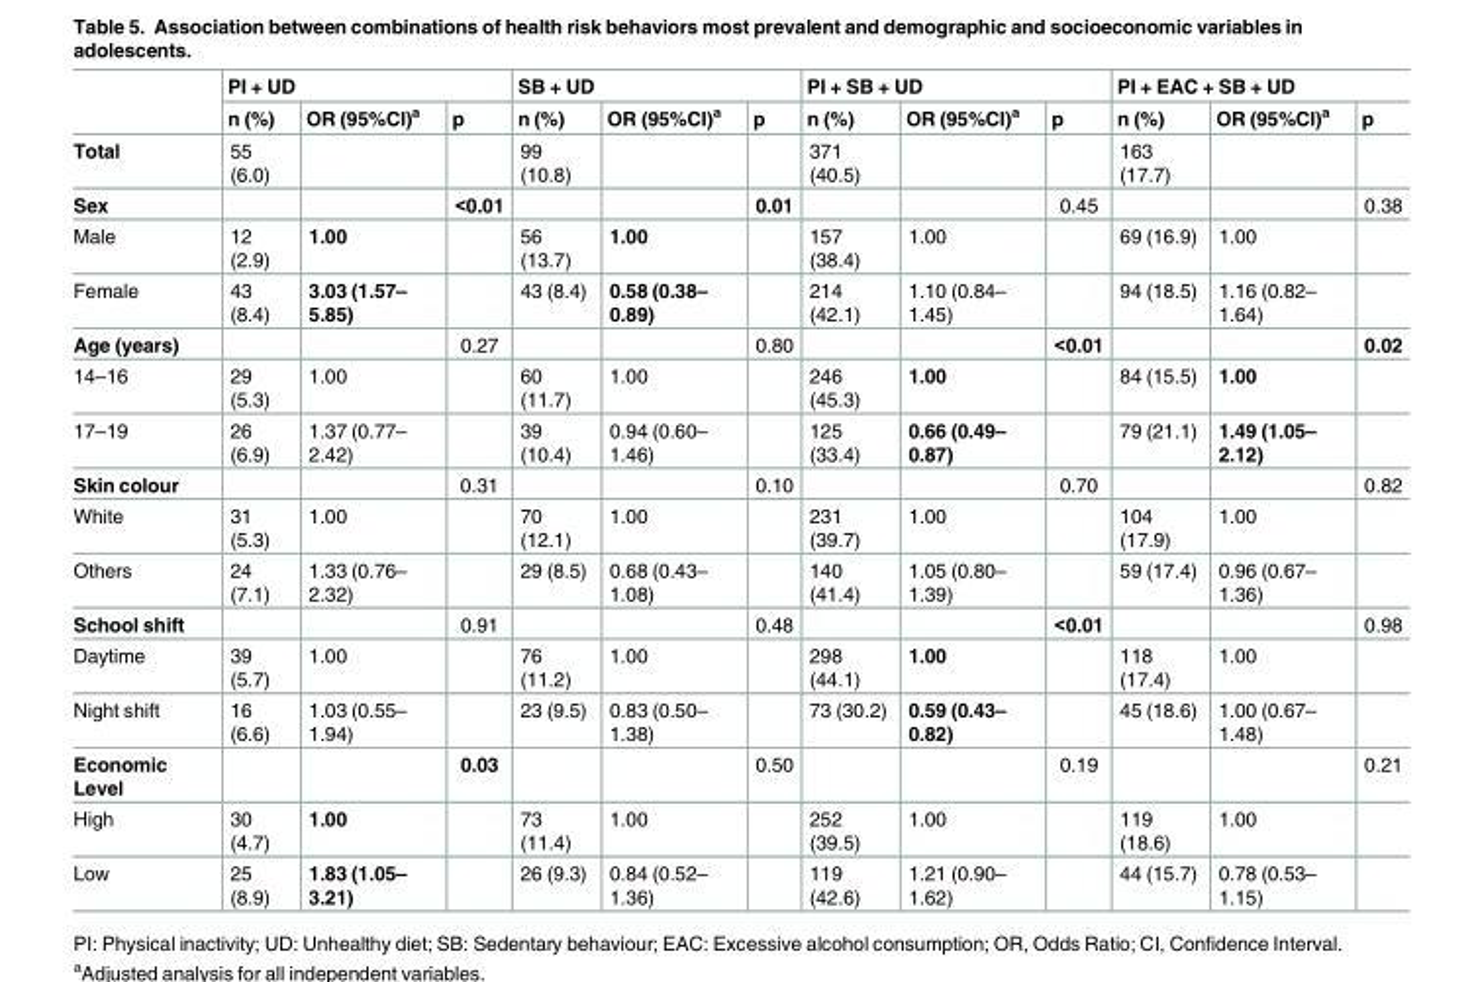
<table><thead><tr><td rowspan="2"></td><td colspan="3">PI + UD</td><td colspan="3">SB + UD</td><td colspan="3">PI + SB + UD</td><td colspan="3">PI + EAC + SB + UD</td></tr><tr><td>n (%)</td><td>OR (95%CI)<sup>a</sup></td><td>p</td><td>n (%)</td><td>OR (95%CI)<sup>a</sup></td><td>p</td><td>n (%)</td><td>OR (95%CI)<sup>a</sup></td><td>p</td><td>n (%)</td><td>OR (95%CI)<sup>a</sup></td><td>p</td></tr></thead><tbody><tr><td>Total</td><td>55 (6.0)</td><td></td><td></td><td>99 (10.8)</td><td></td><td></td><td>371 (40.5)</td><td></td><td></td><td>163 (17.7)</td><td></td><td></td></tr><tr><td>Sex</td><td></td><td></td><td>&lt;0.01</td><td></td><td></td><td>0.01</td><td></td><td></td><td>0.45</td><td></td><td></td><td>0.38</td></tr><tr><td>Male</td><td>12 (2.9)</td><td>1.00</td><td></td><td>56 (13.7)</td><td>1.00</td><td></td><td>157 (38.4)</td><td>1.00</td><td></td><td>69 (16.9)</td><td>1.00</td><td></td></tr><tr><td>Female</td><td>43 (8.4)</td><td>3.03 (1.57– 5.85)</td><td></td><td>43 (8.4)</td><td>0.58 (0.38– 0.89)</td><td></td><td>214 (42.1)</td><td>1.10 (0.84– 1.45)</td><td></td><td>94 (18.5)</td><td>1.16 (0.82– 1.64)</td><td></td></tr><tr><td>Age (years)</td><td></td><td></td><td>0.27</td><td></td><td></td><td>0.80</td><td></td><td></td><td>&lt;0.01</td><td></td><td></td><td>0.02</td></tr><tr><td>14–16</td><td>29 (5.3)</td><td>1.00</td><td></td><td>60 (11.7)</td><td>1.00</td><td></td><td>246 (45.3)</td><td>1.00</td><td></td><td>84 (15.5)</td><td>1.00</td><td></td></tr><tr><td>17–19</td><td>26 (6.9)</td><td>1.37 (0.77– 2.42)</td><td></td><td>39 (10.4)</td><td>0.94 (0.60– 1.46)</td><td></td><td>125 (33.4)</td><td>0.66 (0.49– 0.87)</td><td></td><td>79 (21.1)</td><td>1.49 (1.05– 2.12)</td><td></td></tr><tr><td>Skin colour</td><td></td><td></td><td>0.31</td><td></td><td></td><td>0.10</td><td></td><td></td><td>0.70</td><td></td><td></td><td>0.82</td></tr><tr><td>White</td><td>31 (5.3)</td><td>1.00</td><td></td><td>70 (12.1)</td><td>1.00</td><td></td><td>231 (39.7)</td><td>1.00</td><td></td><td>104 (17.9)</td><td>1.00</td><td></td></tr><tr><td>Others</td><td>24 (7.1)</td><td>1.33 (0.76– 2.32)</td><td></td><td>29 (8.5)</td><td>0.68 (0.43– 1.08)</td><td></td><td>140 (41.4)</td><td>1.05 (0.80– 1.39)</td><td></td><td>59 (17.4)</td><td>0.96 (0.67– 1.36)</td><td></td></tr><tr><td>School shift</td><td></td><td></td><td>0.91</td><td></td><td></td><td>0.48</td><td></td><td></td><td>&lt;0.01</td><td></td><td></td><td>0.98</td></tr><tr><td>Daytime</td><td>39 (5.7)</td><td>1.00</td><td></td><td>76 (11.2)</td><td>1.00</td><td></td><td>298 (44.1)</td><td>1.00</td><td></td><td>118 (17.4)</td><td>1.00</td><td></td></tr><tr><td>Night shift</td><td>16 (6.6)</td><td>1.03 (0.55– 1.94)</td><td></td><td>23 (9.5)</td><td>0.83 (0.50– 1.38)</td><td></td><td>73 (30.2)</td><td>0.59 (0.43– 0.82)</td><td></td><td>45 (18.6)</td><td>1.00 (0.67– 1.48)</td><td></td></tr><tr><td>Economic Level</td><td></td><td></td><td>0.03</td><td></td><td></td><td>0.50</td><td></td><td></td><td>0.19</td><td></td><td></td><td>0.21</td></tr><tr><td>High</td><td>30 (4.7)</td><td>1.00</td><td></td><td>73 (11.4)</td><td>1.00</td><td></td><td>252 (39.5)</td><td>1.00</td><td></td><td>119 (18.6)</td><td>1.00</td><td></td></tr><tr><td>Low</td><td>25 (8.9)</td><td>1.83 (1.05– 3.21)</td><td></td><td>26 (9.3)</td><td>0.84 (0.52– 1.36)</td><td></td><td>119 (42.6)</td><td>1.21 (0.90– 1.62)</td><td></td><td>44 (15.7)</td><td>0.78 (0.53– 1.15)</td><td></td></tr></tbody></table>